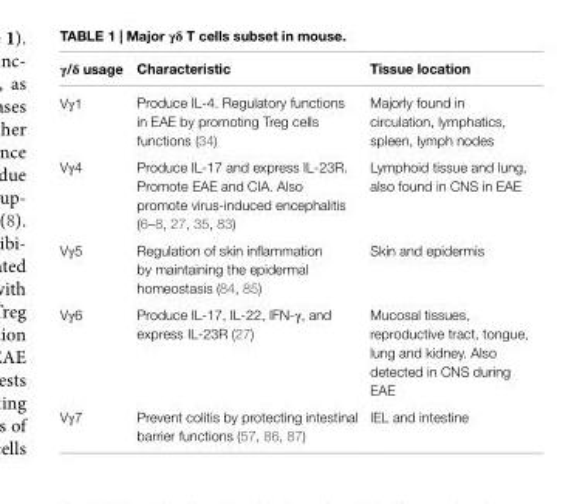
<table><thead><tr><td>γ/δ usage</td><td>Characteristic</td><td>Tissue location</td></tr></thead><tbody><tr><td>Vγ1</td><td>Produce IL-4. Regulatory functions in EAE by promoting Treg cells functions (34)</td><td>Majorly found in circulation, lymphatics, spleen, lymph nodes</td></tr><tr><td>Vγ4</td><td>Produce IL-17 and express IL-23R. Promote EAE and CIA. Also promote virus-induced encephalitis (6–8, 27, 35, 83)</td><td>Lymphoid tissue and lung, also found in CNS in EAE</td></tr><tr><td>Vγ5</td><td>Regulation of skin inflammation by maintaining the epidermal homeostasis (84, 85)</td><td>Skin and epidermis</td></tr><tr><td>Vγ6</td><td>Produce IL-17, IL-22, IFN-γ, and express IL-23R (27)</td><td>Mucosal tissues, reproductive tract, tongue, lung and kidney. Also detected in CNS during EAE</td></tr><tr><td>Vγ7</td><td>Prevent colitis by protecting intestinal barrier functions (57, 86, 87)</td><td>IEL and intestine</td></tr></tbody></table>